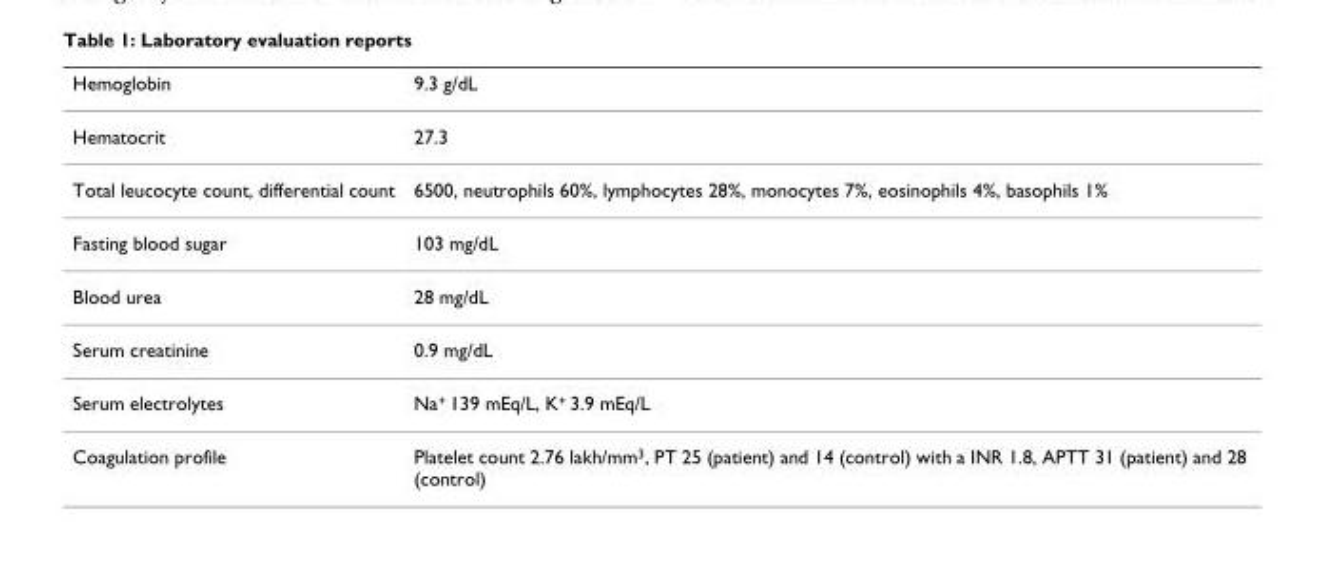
<table><thead><tr><td>Hemoglobin</td><td>9.3 g/dL</td></tr></thead><tbody><tr><td>Hematocrit</td><td>27.3</td></tr><tr><td>Total leucocyte count, differential count</td><td>6500, neutrophils 60%, lymphocytes 28%, monocytes 7%, eosinophils 4%, basophils 1%</td></tr><tr><td>Fasting blood sugar</td><td>103 mg/dL</td></tr><tr><td>Blood urea</td><td>28 mg/dL</td></tr><tr><td>Serum creatinine</td><td>0.9 mg/dL</td></tr><tr><td>Serum electrolytes</td><td>Na<sup>+</sup> 139 mEq/L, K<sup>+</sup> 3.9 mEq/L</td></tr><tr><td>Coagulation profile</td><td>Platelet count 2.76 lakh/mm<sup>3</sup>, PT 25 (patient) and 14 (control) with a INR 1.8, APTT 31 (patient) and 28 (control)</td></tr></tbody></table>